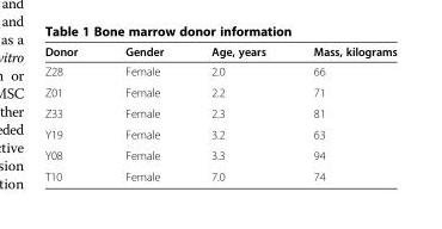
<table><thead><tr><td>Donor</td><td>Gender</td><td>Age, years</td><td>Mass, kilograms</td></tr></thead><tbody><tr><td>Z28</td><td>Female</td><td>2.0</td><td>66</td></tr><tr><td>Z01</td><td>Female</td><td>2.2</td><td>71</td></tr><tr><td>Z33</td><td>Female</td><td>2.3</td><td>81</td></tr><tr><td>Y19</td><td>Female</td><td>3.2</td><td>63</td></tr><tr><td>Y08</td><td>Female</td><td>3.3</td><td>94</td></tr><tr><td>T10</td><td>Female</td><td>7.0</td><td>74</td></tr></tbody></table>